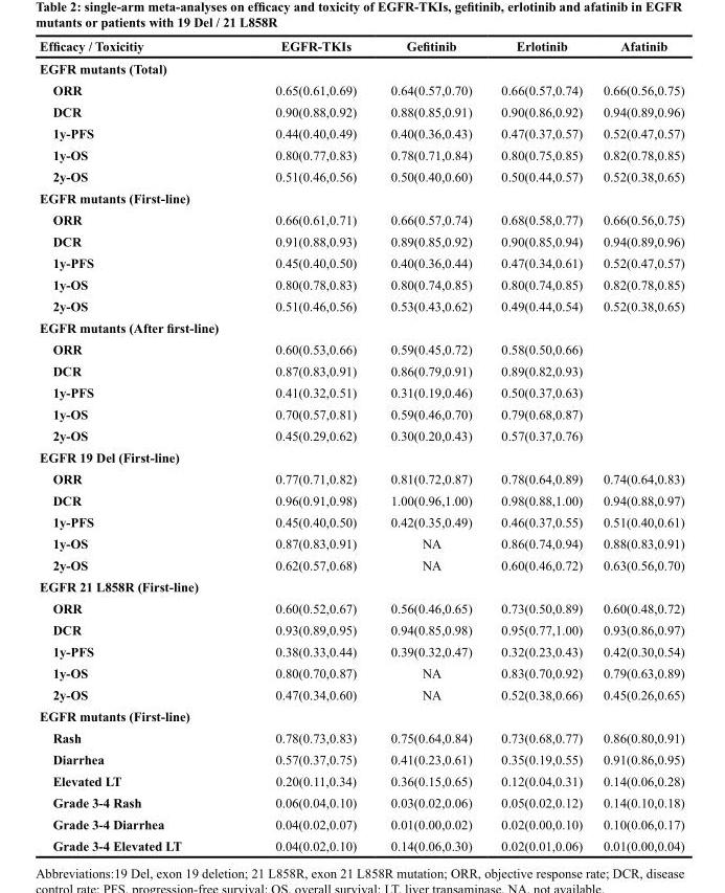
<table><thead><tr><td>Efficacy / Toxicitiy</td><td>EGFR-TKIs</td><td>Gefitinib</td><td>Erlotinib</td><td>Afatinib</td></tr></thead><tbody><tr><td colspan="5">EGFR mutants (Total)</td></tr><tr><td>ORR</td><td>0.65(0.61,0.69)</td><td>0.64(0.57,0.70)</td><td>0.66(0.57,0.74)</td><td>0.66(0.56,0.75)</td></tr><tr><td>DCR</td><td>0.90(0.88,0.92)</td><td>0.88(0.85,0.91)</td><td>0.90(0.86,0.92)</td><td>0.94(0.89,0.96)</td></tr><tr><td>1y-PFS</td><td>0.44(0.40,0.49)</td><td>0.40(0.36,0.43)</td><td>0.47(0.37,0.57)</td><td>0.52(0.47,0.57)</td></tr><tr><td>1y-OS</td><td>0.80(0.77,0.83)</td><td>0.78(0.71,0.84)</td><td>0.80(0.75,0.85)</td><td>0.82(0.78,0.85)</td></tr><tr><td>2y-OS</td><td>0.51(0.46,0.56)</td><td>0.50(0.40,0.60)</td><td>0.50(0.44,0.57)</td><td>0.52(0.38,0.65)</td></tr><tr><td colspan="5">EGFR mutants (First-line)</td></tr><tr><td>ORR</td><td>0.66(0.61,0.71)</td><td>0.66(0.57,0.74)</td><td>0.68(0.58,0.77)</td><td>0.66(0.56,0.75)</td></tr><tr><td>DCR</td><td>0.91(0.88,0.93)</td><td>0.89(0.85,0.92)</td><td>0.90(0.85,0.94)</td><td>0.94(0.89,0.96)</td></tr><tr><td>1y-PFS</td><td>0.45(0.40,0.50)</td><td>0.40(0.36,0.44)</td><td>0.47(0.34,0.61)</td><td>0.52(0.47,0.57)</td></tr><tr><td>1y-OS</td><td>0.80(0.78,0.83)</td><td>0.80(0.74,0.85)</td><td>0.80(0.74,0.85)</td><td>0.82(0.78,0.85)</td></tr><tr><td>2y-OS</td><td>0.51(0.46,0.56)</td><td>0.53(0.43,0.62)</td><td>0.49(0.44,0.54)</td><td>0.52(0.38,0.65)</td></tr><tr><td colspan="5">EGFR mutants (After first-line)</td></tr><tr><td>ORR</td><td>0.60(0.53,0.66)</td><td>0.59(0.45,0.72)</td><td>0.58(0.50,0.66)</td><td></td></tr><tr><td>DCR</td><td>0.87(0.83,0.91)</td><td>0.86(0.79,0.91)</td><td>0.89(0.82,0.93)</td><td></td></tr><tr><td>1y-PFS</td><td>0.41(0.32,0.51)</td><td>0.31(0.19,0.46)</td><td>0.50(0.37,0.63)</td><td></td></tr><tr><td>1y-OS</td><td>0.70(0.57,0.81)</td><td>0.59(0.46,0.70)</td><td>0.79(0.68,0.87)</td><td></td></tr><tr><td>2y-OS</td><td>0.45(0.29,0.62)</td><td>0.30(0.20,0.43)</td><td>0.57(0.37,0.76)</td><td></td></tr><tr><td colspan="5">EGFR 19 Del (First-line)</td></tr><tr><td>ORR</td><td>0.77(0.71,0.82)</td><td>0.81(0.72,0.87)</td><td>0.78(0.64,0.89)</td><td>0.74(0.64,0.83)</td></tr><tr><td>DCR</td><td>0.96(0.91,0.98)</td><td>1.00(0.96,1.00)</td><td>0.98(0.88,1.00)</td><td>0.94(0.88,0.97)</td></tr><tr><td>1y-PFS</td><td>0.45(0.40,0.50)</td><td>0.42(0.35,0.49)</td><td>0.46(0.37,0.55)</td><td>0.51(0.40,0.61)</td></tr><tr><td>1y-OS</td><td>0.87(0.83,0.91)</td><td>NA</td><td>0.86(0.74,0.94)</td><td>0.88(0.83,0.91)</td></tr><tr><td>2y-OS</td><td>0.62(0.57,0.68)</td><td>NA</td><td>0.60(0.46,0.72)</td><td>0.63(0.56,0.70)</td></tr><tr><td colspan="5">EGFR 21 L858R (First-line)</td></tr><tr><td>ORR</td><td>0.60(0.52,0.67)</td><td>0.56(0.46,0.65)</td><td>0.73(0.50,0.89)</td><td>0.60(0.48,0.72)</td></tr><tr><td>DCR</td><td>0.93(0.89,0.95)</td><td>0.94(0.85,0.98)</td><td>0.95(0.77,1.00)</td><td>0.93(0.86,0.97)</td></tr><tr><td>1y-PFS</td><td>0.38(0.33,0.44)</td><td>0.39(0.32,0.47)</td><td>0.32(0.23,0.43)</td><td>0.42(0.30,0.54)</td></tr><tr><td>1y-OS</td><td>0.80(0.70,0.87)</td><td>NA</td><td>0.83(0.70,0.92)</td><td>0.79(0.63,0.89)</td></tr><tr><td>2y-OS</td><td>0.47(0.34,0.60)</td><td>NA</td><td>0.52(0.38,0.66)</td><td>0.45(0.26,0.65)</td></tr><tr><td colspan="5">EGFR mutants (First-line)</td></tr><tr><td>Rash</td><td>0.78(0.73,0.83)</td><td>0.75(0.64,0.84)</td><td>0.73(0.68,0.77)</td><td>0.86(0.80,0.91)</td></tr><tr><td>Diarrhea</td><td>0.57(0.37,0.75)</td><td>0.41(0.23,0.61)</td><td>0.35(0.19,0.55)</td><td>0.91(0.86,0.95)</td></tr><tr><td>Elevated LT</td><td>0.20(0.11,0.34)</td><td>0.36(0.15,0.65)</td><td>0.12(0.04,0.31)</td><td>0.14(0.06,0.28)</td></tr><tr><td>Grade 3-4 Rash</td><td>0.06(0.04,0.10)</td><td>0.03(0.02,0.06)</td><td>0.05(0.02,0.12)</td><td>0.14(0.10,0.18)</td></tr><tr><td>Grade 3-4 Diarrhea</td><td>0.04(0.02,0.07)</td><td>0.01(0.00,0.02)</td><td>0.02(0.00,0.10)</td><td>0.10(0.06,0.17)</td></tr><tr><td>Grade 3-4 Elevated LT</td><td>0.04(0.02,0.10)</td><td>0.14(0.06,0.30)</td><td>0.02(0.01,0.06)</td><td>0.01(0.00,0.04)</td></tr></tbody></table>